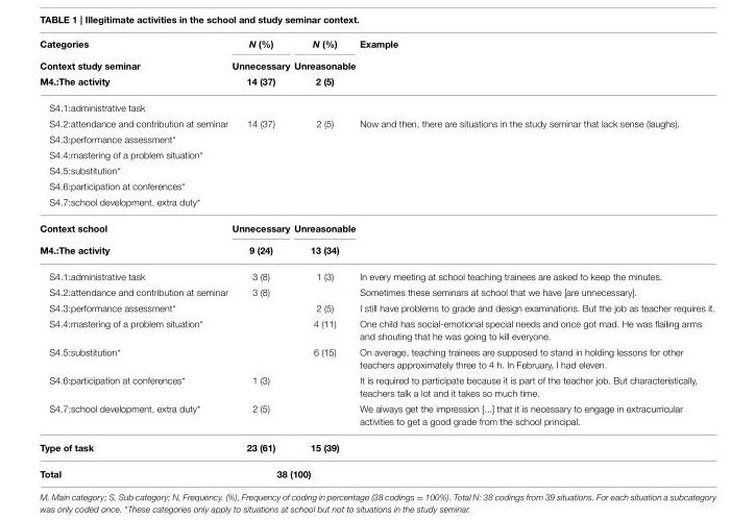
<table><thead><tr><td rowspan="3">Categories Context study seminar M4.:The activity</td><td rowspan="3">N (%) Unnecessary 14 (37)</td><td rowspan="3">N (%) Unreasonable 2 (5)</td><td rowspan="3">Example</td></tr><tr></tr><tr></tr></thead><tbody><tr><td colspan="4">S4.1:administrative task</td></tr><tr><td>S4.2:attendance and contribution at seminar</td><td>14 (37)</td><td>2 (5)</td><td>Now and then, there are situations in the study seminar that lack sense (laughs).</td></tr><tr><td colspan="4">S4.3:performance assessment*</td></tr><tr><td colspan="4">S4.4:mastering of a problem situation*</td></tr><tr><td colspan="4">S4.5:substitution*</td></tr><tr><td colspan="4">S4.6:participation at conferences*</td></tr><tr><td colspan="4">S4.7:school development, extra duty*</td></tr><tr><td>Context school</td><td>Unnecessary</td><td>Unreasonable</td><td></td></tr><tr><td>M4.:The activity</td><td>9 (24)</td><td>13 (34)</td><td></td></tr><tr><td>S4.1:administrative task</td><td>3 (8)</td><td>1 (3)</td><td>In every meeting at school teaching trainees are asked to keep the minutes.</td></tr><tr><td>S4.2:attendance and contribution at seminar</td><td>3 (8)</td><td></td><td>Sometimes these seminars at school that we have [are unnecessary].</td></tr><tr><td>S4.3:performance assessment*</td><td></td><td>2 (5)</td><td>I still have problems to grade and design examinations. But the job as teacher requires it.</td></tr><tr><td>S4.4:mastering of a problem situation*</td><td></td><td>4 (11)</td><td>One child has social-emotional special needs and once got mad. He was flailing arms and shouting that he was going to kill everyone.</td></tr><tr><td>S4.5:substitution*</td><td></td><td>6 (15)</td><td>On average, teaching trainees are supposed to stand in holding lessons for other teachers approximately three to 4 h. In February, I had eleven.</td></tr><tr><td>S4.6:participation at conferences*</td><td>1 (3)</td><td></td><td>It is required to participate because it is part of the teacher job. But characteristically, teachers talk a lot and it takes so much time.</td></tr><tr><td>S4.7:school development, extra duty*</td><td>2 (5)</td><td></td><td>We always get the impression [...] that it is necessary to engage in extracurricular activities to get a good grade from the school principal.</td></tr><tr><td>Type of task</td><td>23 (61)</td><td>15 (39)</td><td></td></tr><tr><td>Total</td><td colspan="2">38 (100)</td><td></td></tr></tbody></table>